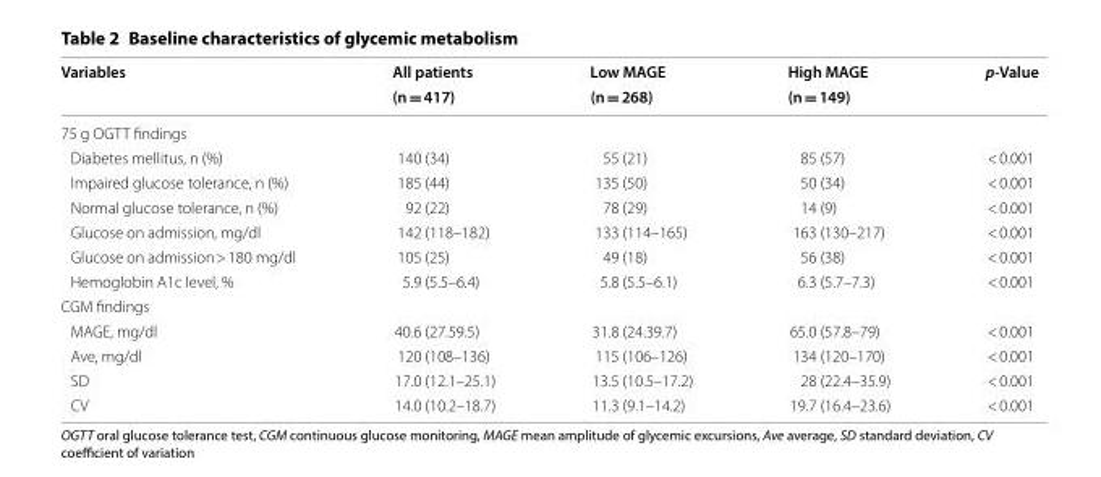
<table><thead><tr><td rowspan="2">Variables</td><td rowspan="2">All patients (n = 417)</td><td rowspan="2">Low MAGE (n = 268)</td><td rowspan="2">High MAGE (n = 149)</td><td rowspan="2">p‑Value</td></tr><tr></tr></thead><tbody><tr><td colspan="5">75 g OGTT findings</td></tr><tr><td>Diabetes mellitus, n (%)</td><td>140 (34)</td><td>55 (21)</td><td>85 (57)</td><td>&lt; 0.001</td></tr><tr><td>Impaired glucose tolerance, n (%)</td><td>185 (44)</td><td>135 (50)</td><td>50 (34)</td><td>&lt; 0.001</td></tr><tr><td>Normal glucose tolerance, n (%)</td><td>92 (22)</td><td>78 (29)</td><td>14 (9)</td><td>&lt; 0.001</td></tr><tr><td>Glucose on admission, mg/dl</td><td>142 (118–182)</td><td>133 (114–165)</td><td>163 (130–217)</td><td>&lt; 0.001</td></tr><tr><td>Glucose on admission &gt; 180 mg/dl</td><td>105 (25)</td><td>49 (18)</td><td>56 (38)</td><td>&lt; 0.001</td></tr><tr><td>Hemoglobin A1c level, %</td><td>5.9 (5.5–6.4)</td><td>5.8 (5.5–6.1)</td><td>6.3 (5.7–7.3)</td><td>&lt; 0.001</td></tr><tr><td colspan="5">CGM findings</td></tr><tr><td>MAGE, mg/dl</td><td>40.6 (27.59.5)</td><td>31.8 (24.39.7)</td><td>65.0 (57.8–79)</td><td>&lt; 0.001</td></tr><tr><td>Ave, mg/dl</td><td>120 (108–136)</td><td>115 (106–126)</td><td>134 (120–170)</td><td>&lt; 0.001</td></tr><tr><td>SD</td><td>17.0 (12.1–25.1)</td><td>13.5 (10.5–17.2)</td><td>28 (22.4–35.9)</td><td>&lt; 0.001</td></tr><tr><td>CV</td><td>14.0 (10.2–18.7)</td><td>11.3 (9.1–14.2)</td><td>19.7 (16.4–23.6)</td><td>&lt; 0.001</td></tr></tbody></table>